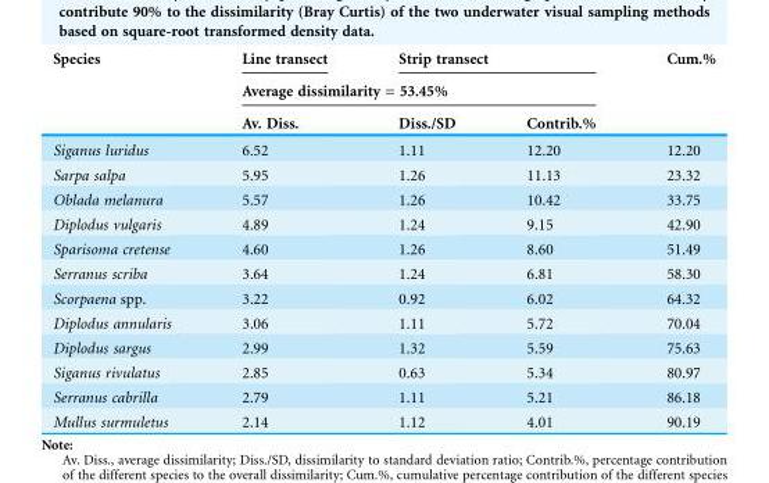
<table><thead><tr><td rowspan="3">Species</td><td>Line transect</td><td colspan="2">Strip transect</td><td rowspan="3">Cum.%</td></tr><tr><td colspan="3">Average dissimilarity = 53.45%</td></tr><tr><td>Av. Diss.</td><td>Diss./SD</td><td>Contrib.%</td></tr></thead><tbody><tr><td>Siganus luridus</td><td>6.52</td><td>1.11</td><td>12.20</td><td>12.20</td></tr><tr><td>Sarpa salpa</td><td>5.95</td><td>1.26</td><td>11.13</td><td>23.32</td></tr><tr><td>Oblada melanura</td><td>5.57</td><td>1.26</td><td>10.42</td><td>33.75</td></tr><tr><td>Diplodus vulgaris</td><td>4.89</td><td>1.24</td><td>9.15</td><td>42.90</td></tr><tr><td>Sparisoma cretense</td><td>4.60</td><td>1.26</td><td>8.60</td><td>51.49</td></tr><tr><td>Serranus scriba</td><td>3.64</td><td>1.24</td><td>6.81</td><td>58.30</td></tr><tr><td>Scorpaena spp.</td><td>3.22</td><td>0.92</td><td>6.02</td><td>64.32</td></tr><tr><td>Diplodus annularis</td><td>3.06</td><td>1.11</td><td>5.72</td><td>70.04</td></tr><tr><td>Diplodus sargus</td><td>2.99</td><td>1.32</td><td>5.59</td><td>75.63</td></tr><tr><td>Siganus rivulatus</td><td>2.85</td><td>0.63</td><td>5.34</td><td>80.97</td></tr><tr><td>Serranus cabrilla</td><td>2.79</td><td>1.11</td><td>5.21</td><td>86.18</td></tr><tr><td>Mullus surmuletus</td><td>2.14</td><td>1.12</td><td>4.01</td><td>90.19</td></tr></tbody></table>